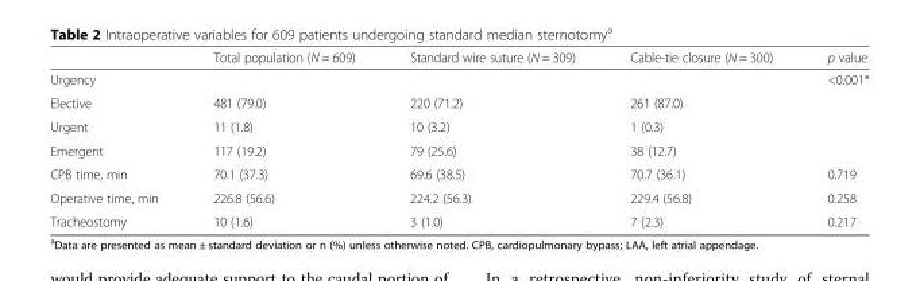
<table><thead><tr><td></td><td>Total population (N = 609)</td><td>Standard wire suture (N = 309)</td><td>Cable-tie closure (N = 300)</td><td>p value</td></tr></thead><tbody><tr><td>Urgency</td><td></td><td></td><td></td><td>&lt;0.001*</td></tr><tr><td>Elective</td><td>481 (79.0)</td><td>220 (71.2)</td><td>261 (87.0)</td><td></td></tr><tr><td>Urgent</td><td>11 (1.8)</td><td>10 (3.2)</td><td>1 (0.3)</td><td></td></tr><tr><td>Emergent</td><td>117 (19.2)</td><td>79 (25.6)</td><td>38 (12.7)</td><td></td></tr><tr><td>CPB time, min</td><td>70.1 (37.3)</td><td>69.6 (38.5)</td><td>70.7 (36.1)</td><td>0.719</td></tr><tr><td>Operative time, min</td><td>226.8 (56.6)</td><td>224.2 (56.3)</td><td>229.4 (56.8)</td><td>0.258</td></tr><tr><td>Tracheostomy</td><td>10 (1.6)</td><td>3 (1.0)</td><td>7 (2.3)</td><td>0.217</td></tr></tbody></table>